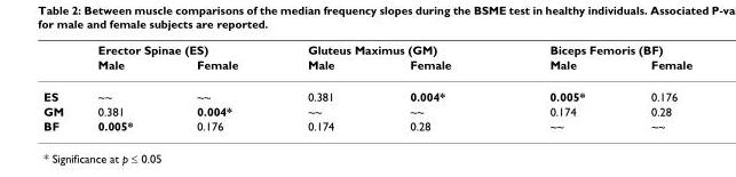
<table><thead><tr><td rowspan="2"></td><td colspan="2">Erector Spinae (ES)</td><td colspan="2">Gluteus Maximus (GM)</td><td colspan="2">Biceps Femoris (BF)</td></tr><tr><td>Male</td><td>Female</td><td>Male</td><td>Female</td><td>Male</td><td>Female</td></tr></thead><tbody><tr><td>ES</td><td>~~</td><td>~~</td><td>0.381</td><td>0.004*</td><td>0.005*</td><td>0.176</td></tr><tr><td>GM</td><td>0.381</td><td>0.004*</td><td>~~</td><td>~~</td><td>0.174</td><td>0.28</td></tr><tr><td>BF</td><td>0.005*</td><td>0.176</td><td>0.174</td><td>0.28</td><td>~~</td><td>~~</td></tr></tbody></table>